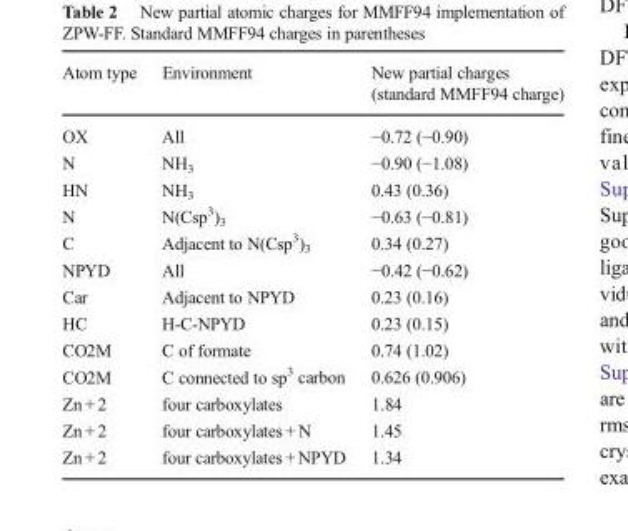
<table><thead><tr><td>Atom type</td><td>Environment</td><td>New partial charges (standard MMFF94 charge)</td></tr></thead><tbody><tr><td>OX</td><td>All</td><td>−0.72 (−0.90)</td></tr><tr><td>N</td><td>NH<sub>3</sub></td><td>−0.90 (−1.08)</td></tr><tr><td>HN</td><td>NH<sub>3</sub></td><td>0.43 (0.36)</td></tr><tr><td>N</td><td>N(Csp<sup>3</sup>)<sub>3</sub></td><td>−0.63 (−0.81)</td></tr><tr><td>C</td><td>Adjacent to N(Csp<sup>3</sup>)<sub>3</sub></td><td>0.34 (0.27)</td></tr><tr><td>NPYD</td><td>All</td><td>−0.42 (−0.62)</td></tr><tr><td>Car</td><td>Adjacent to NPYD</td><td>0.23 (0.16)</td></tr><tr><td>HC</td><td>H-C-NPYD</td><td>0.23 (0.15)</td></tr><tr><td>CO2M</td><td>C of formate</td><td>0.74 (1.02)</td></tr><tr><td>CO2M</td><td>C connected to sp<sup>3</sup> carbon</td><td>0.626 (0.906)</td></tr><tr><td>Zn + 2</td><td>four carboxylates</td><td>1.84</td></tr><tr><td>Zn + 2</td><td>four carboxylates + N</td><td>1.45</td></tr><tr><td>Zn + 2</td><td>four carboxylates + NPYD</td><td>1.34</td></tr></tbody></table>